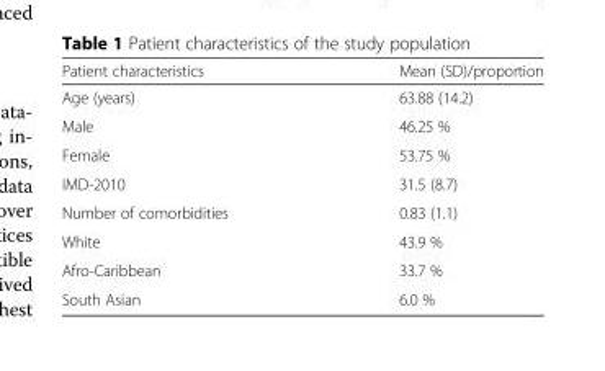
<table><thead><tr><td>Patient characteristics</td><td>Mean (SD)/proportion</td></tr></thead><tbody><tr><td>Age (years)</td><td>63.88 (14.2)</td></tr><tr><td>Male</td><td>46.25 %</td></tr><tr><td>Female</td><td>53.75 %</td></tr><tr><td>IMD-2010</td><td>31.5 (8.7)</td></tr><tr><td>Number of comorbidities</td><td>0.83 (1.1)</td></tr><tr><td>White</td><td>43.9 %</td></tr><tr><td>Afro-Caribbean</td><td>33.7 %</td></tr><tr><td>South Asian</td><td>6.0 %</td></tr></tbody></table>